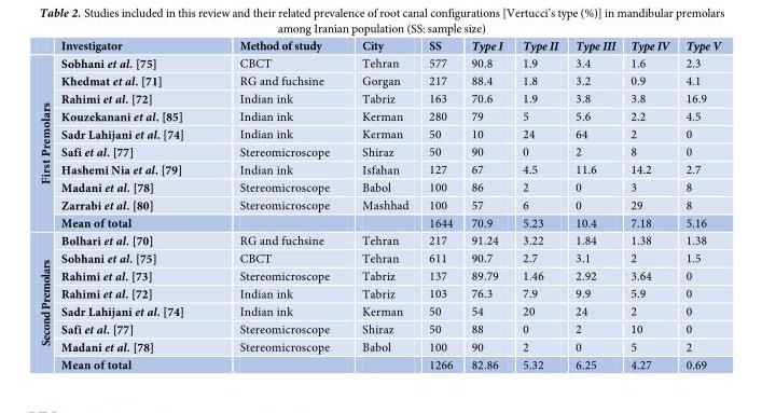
<table><thead><tr><td></td><td>Investigator</td><td>Method of study</td><td>City</td><td>SS</td><td>Type I</td><td>Type II</td><td>Type III</td><td>Type IV</td><td>Type V</td></tr></thead><tbody><tr><td rowspan="10">First Premolars</td><td>Sobhani et al. [75]</td><td>CBCT</td><td>Tehran</td><td>577</td><td>90.8</td><td>1.9</td><td>3.4</td><td>1.6</td><td>2.3</td></tr><tr><td>Khedmat et al. [71]</td><td>RG and fuchsine</td><td>Gorgan</td><td>217</td><td>88.4</td><td>1.8</td><td>3.2</td><td>0.9</td><td>4.1</td></tr><tr><td>Rahimi et al. [72]</td><td>Indian ink</td><td>Tabriz</td><td>163</td><td>70.6</td><td>1.9</td><td>3.8</td><td>3.8</td><td>16.9</td></tr><tr><td>Kouzekanani et al. [85]</td><td>Indian ink</td><td>Kerman</td><td>280</td><td>79</td><td>5</td><td>5.6</td><td>2.2</td><td>4.5</td></tr><tr><td>Sadr Lahijani et al. [74]</td><td>Indian ink</td><td>Kerman</td><td>50</td><td>10</td><td>24</td><td>64</td><td>2</td><td>0</td></tr><tr><td>Safi et al. [77]</td><td>Stereomicroscope</td><td>Shiraz</td><td>50</td><td>90</td><td>0</td><td>2</td><td>8</td><td>0</td></tr><tr><td>Hashemi Nia et al. [79]</td><td>Indian ink</td><td>Isfahan</td><td>127</td><td>67</td><td>4.5</td><td>11.6</td><td>14.2</td><td>2.7</td></tr><tr><td>Madani et al. [78]</td><td>Stereomicroscope</td><td>Babol</td><td>100</td><td>86</td><td>2</td><td>0</td><td>3</td><td>8</td></tr><tr><td>Zarrabi et al. [80]</td><td>Stereomicroscope</td><td>Mashhad</td><td>100</td><td>57</td><td>6</td><td>0</td><td>29</td><td>8</td></tr><tr><td>Mean of total</td><td></td><td></td><td>1644</td><td>70.9</td><td>5.23</td><td>10.4</td><td>7.18</td><td>5.16</td></tr><tr><td rowspan="8">Second Premolars</td><td>Bolhari et al. [70]</td><td>RG and fuchsine</td><td>Tehran</td><td>217</td><td>91.24</td><td>3.22</td><td>1.84</td><td>1.38</td><td>1.38</td></tr><tr><td>Sobhani et al. [75]</td><td>CBCT</td><td>Tehran</td><td>611</td><td>90.7</td><td>2.7</td><td>3.1</td><td>2</td><td>1.5</td></tr><tr><td>Rahimi et al. [73]</td><td>Stereomicroscope</td><td>Tabriz</td><td>137</td><td>89.79</td><td>1.46</td><td>2.92</td><td>3.64</td><td>0</td></tr><tr><td>Rahimi et al. [72]</td><td>Indian ink</td><td>Tabriz</td><td>103</td><td>76.3</td><td>7.9</td><td>9.9</td><td>5.9</td><td>0</td></tr><tr><td>Sadr Lahijani et al. [74]</td><td>Indian ink</td><td>Kerman</td><td>50</td><td>54</td><td>20</td><td>24</td><td>2</td><td>0</td></tr><tr><td>Safi et al. [77]</td><td>Stereomicroscope</td><td>Shiraz</td><td>50</td><td>88</td><td>0</td><td>2</td><td>10</td><td>0</td></tr><tr><td>Madani et al. [78]</td><td>Stereomicroscope</td><td>Babol</td><td>100</td><td>90</td><td>2</td><td>0</td><td>5</td><td>2</td></tr><tr><td>Mean of total</td><td></td><td></td><td>1266</td><td>82.86</td><td>5.32</td><td>6.25</td><td>4.27</td><td>0.69</td></tr></tbody></table>